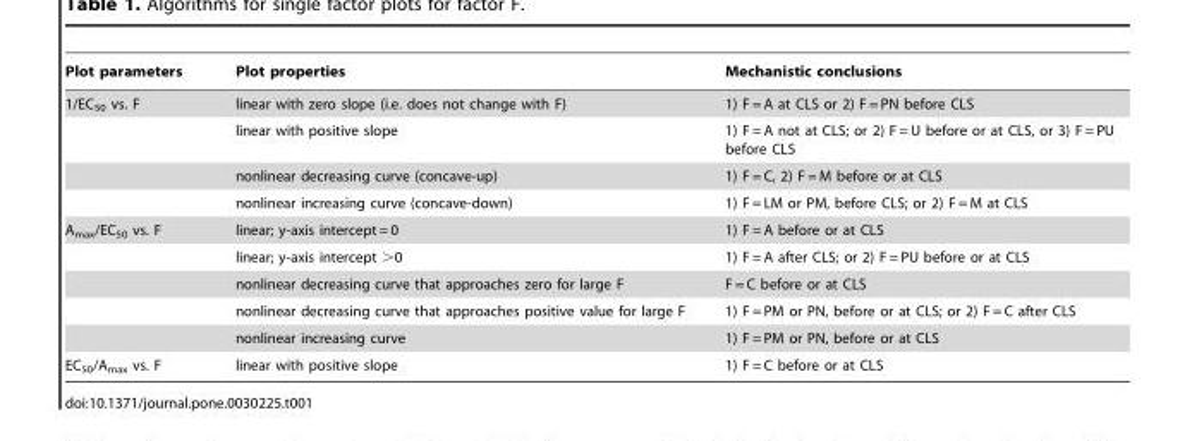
<table><thead><tr><td>Plot parameters</td><td>Plot properties</td><td>Mechanistic conclusions</td></tr></thead><tbody><tr><td rowspan="4">1/EC<sub>50</sub> vs. F</td><td>linear with zero slope (i.e. does not change with F)</td><td>1) F = A at CLS or 2) F = PN before CLS</td></tr><tr><td>linear with positive slope</td><td>1) F = A not at CLS; or 2) F = U before or at CLS, or 3) F = PU before CLS</td></tr><tr><td>nonlinear decreasing curve (concave-up)</td><td>1) F = C, 2) F = M before or at CLS</td></tr><tr><td>nonlinear increasing curve (concave-down)</td><td>1) F = LM or PM, before CLS; or 2) F = M at CLS</td></tr><tr><td rowspan="5">A<sub>max</sub>/EC<sub>50</sub> vs. F</td><td>linear; y-axis intercept = 0</td><td>1) F = A before or at CLS</td></tr><tr><td>linear; y-axis intercept &gt;0</td><td>1) F = A after CLS; or 2) F = PU before or at CLS</td></tr><tr><td>nonlinear decreasing curve that approaches zero for large F</td><td>F = C before or at CLS</td></tr><tr><td>nonlinear decreasing curve that approaches positive value for large F</td><td>1) F = PM or PN, before or at CLS; or 2) F = C after CLS</td></tr><tr><td>nonlinear increasing curve</td><td>1) F = PM or PN, before or at CLS</td></tr><tr><td>EC<sub>50</sub>/A<sub>max</sub> vs. F</td><td>linear with positive slope</td><td>1) F = C before or at CLS</td></tr></tbody></table>